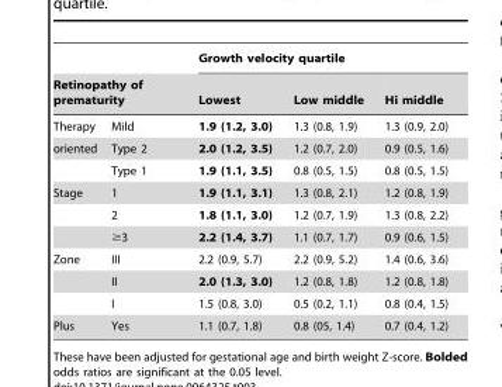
<table><thead><tr><td></td><td></td><td colspan="3">Growth velocity quartile</td></tr><tr><td colspan="2">Retinopathy of prematurity</td><td>Lowest</td><td>Low middle</td><td>Hi middle</td></tr></thead><tbody><tr><td>Therapy</td><td>Mild</td><td>1.9 (1.2, 3.0)</td><td>1.3 (0.8, 1.9)</td><td>1.3 (0.9, 2.0)</td></tr><tr><td rowspan="2">oriented</td><td>Type 2</td><td>2.0 (1.2, 3.5)</td><td>1.2 (0.7, 2.0)</td><td>0.9 (0.5, 1.6)</td></tr><tr><td>Type 1</td><td>1.9 (1.1, 3.5)</td><td>0.8 (0.5, 1.5)</td><td>0.8 (0.5, 1.5)</td></tr><tr><td rowspan="3">Stage</td><td>1</td><td>1.9 (1.1, 3.1)</td><td>1.3 (0.8, 2.1)</td><td>1.2 (0.8, 1.9)</td></tr><tr><td>2</td><td>1.8 (1.1, 3.0)</td><td>1.2 (0.7, 1.9)</td><td>1.3 (0.8, 2.2)</td></tr><tr><td>≥3</td><td>2.2 (1.4, 3.7)</td><td>1.1 (0.7, 1.7)</td><td>0.9 (0.6, 1.5)</td></tr><tr><td rowspan="3">Zone</td><td>III</td><td>2.2 (0.9, 5.7)</td><td>2.2 (0.9, 5.2)</td><td>1.4 (0.6, 3.6)</td></tr><tr><td>II</td><td>2.0 (1.3, 3.0)</td><td>1.2 (0.8, 1.8)</td><td>1.2 (0.8, 1.8)</td></tr><tr><td>I</td><td>1.5 (0.8, 3.0)</td><td>0.5 (0.2, 1.1)</td><td>0.8 (0.4, 1.5)</td></tr><tr><td>Plus</td><td>Yes</td><td>1.1 (0.7, 1.8)</td><td>0.8 (05, 1.4)</td><td>0.7 (0.4, 1.2)</td></tr></tbody></table>